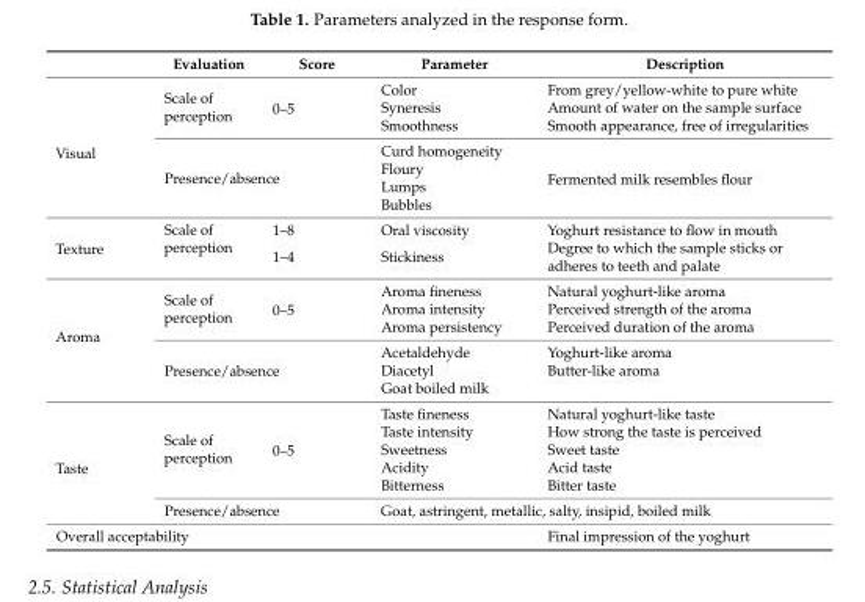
<table><thead><tr><td></td><td>Evaluation</td><td>Score</td><td>Parameter</td><td>Description</td></tr></thead><tbody><tr><td rowspan="7">Visual</td><td rowspan="3">Scale of perception</td><td rowspan="3">0–5</td><td>Color</td><td>From grey/yellow-white to pure white</td></tr><tr><td>Syneresis</td><td>Amount of water on the sample surface</td></tr><tr><td>Smoothness</td><td>Smooth appearance, free of irregularities</td></tr><tr><td rowspan="4" colspan="2">Presence/absence</td><td>Curd homogeneity</td><td rowspan="4">Fermented milk resembles flour</td></tr><tr><td>Floury</td></tr><tr><td>Lumps</td></tr><tr><td>Bubbles</td></tr><tr><td rowspan="2">Texture</td><td rowspan="2">Scale of perception</td><td>1–8</td><td>Oral viscosity</td><td>Yoghurt resistance to flow in mouth</td></tr><tr><td>1–4</td><td>Stickiness</td><td>Degree to which the sample sticks or adheres to teeth and palate</td></tr><tr><td rowspan="6">Aroma</td><td rowspan="3">Scale of perception</td><td rowspan="3">0–5</td><td>Aroma fineness</td><td>Natural yoghurt-like aroma</td></tr><tr><td>Aroma intensity</td><td>Perceived strength of the aroma</td></tr><tr><td>Aroma persistency</td><td>Perceived duration of the aroma</td></tr><tr><td rowspan="3" colspan="2">Presence/absence</td><td>Acetaldehyde</td><td>Yoghurt-like aroma</td></tr><tr><td>Diacetyl</td><td>Butter-like aroma</td></tr><tr><td colspan="2">Goat boiled milk</td></tr><tr><td rowspan="6">Taste</td><td rowspan="5">Scale of perception</td><td rowspan="5">0–5</td><td>Taste fineness</td><td>Natural yoghurt-like taste</td></tr><tr><td>Taste intensity</td><td>How strong the taste is perceived</td></tr><tr><td>Sweetness</td><td>Sweet taste</td></tr><tr><td>Acidity</td><td>Acid taste</td></tr><tr><td>Bitterness</td><td>Bitter taste</td></tr><tr><td colspan="2">Presence/absence</td><td colspan="2">Goat, astringent, metallic, salty, insipid, boiled milk</td></tr><tr><td colspan="4">Overall acceptability</td><td>Final impression of the yoghurt</td></tr></tbody></table>